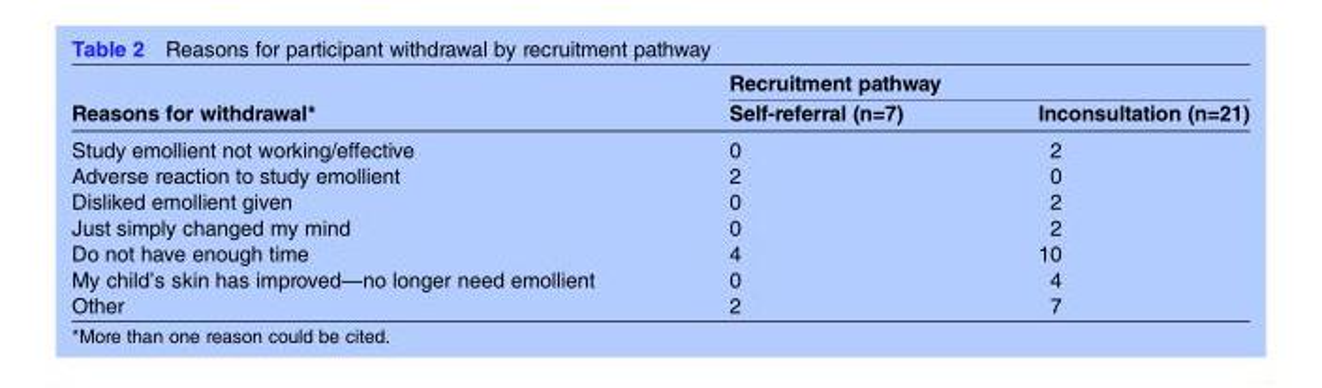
<table><thead><tr><td rowspan="2">Reasons for withdrawal*</td><td colspan="2">Recruitment pathway</td></tr><tr><td>Self-referral (n=7)</td><td>Inconsultation (n=21)</td></tr></thead><tbody><tr><td>Study emollient not working/effective</td><td>0</td><td>2</td></tr><tr><td>Adverse reaction to study emollient</td><td>2</td><td>0</td></tr><tr><td>Disliked emollient given</td><td>0</td><td>2</td></tr><tr><td>Just simply changed my mind</td><td>0</td><td>2</td></tr><tr><td>Do not have enough time</td><td>4</td><td>10</td></tr><tr><td>My child’s skin has improved—no longer need emollient</td><td>0</td><td>4</td></tr><tr><td>Other</td><td>2</td><td>7</td></tr></tbody></table>